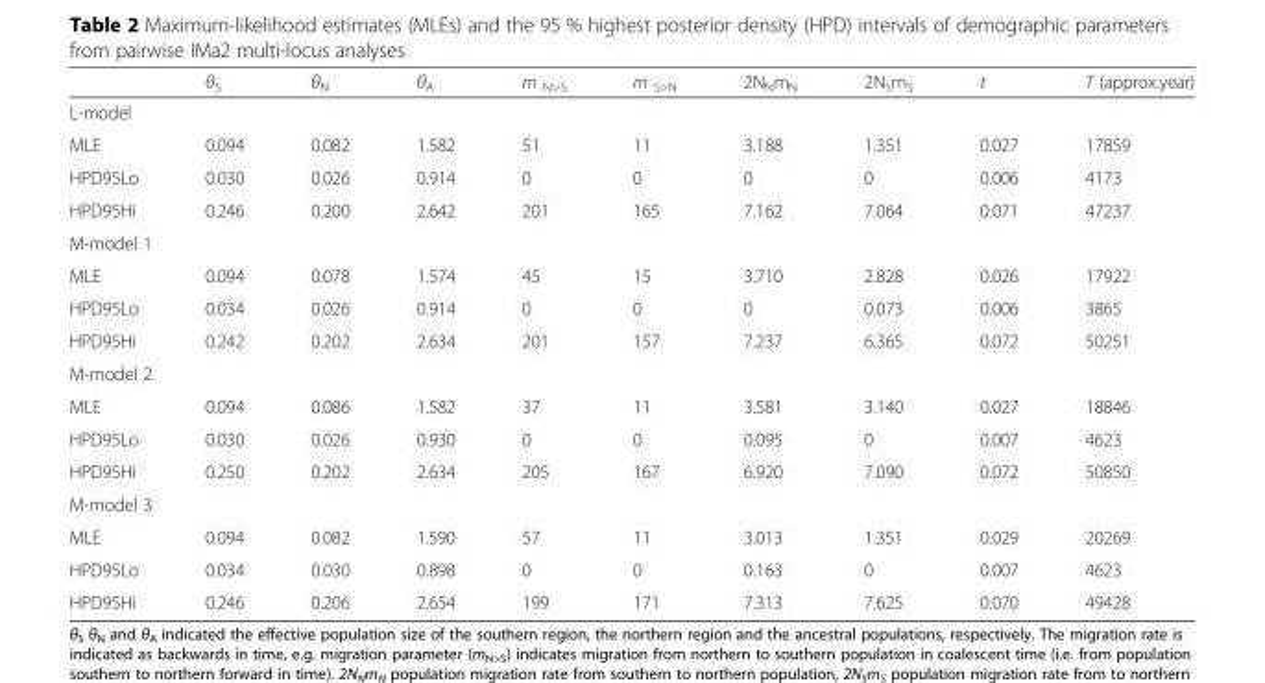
<table><thead><tr><td></td><td>θ<sub>S</sub></td><td>θ<sub>N</sub></td><td>θ<sub>A</sub></td><td>m <sub>N&gt;S</sub></td><td>m <sub>S&gt;N</sub></td><td>2N<sub>N</sub>m<sub>N</sub></td><td>2N<sub>S</sub>m<sub>S</sub></td><td>t</td><td>T (approx.year)</td></tr></thead><tbody><tr><td colspan="10">L-model</td></tr><tr><td>MLE</td><td>0.094</td><td>0.082</td><td>1.582</td><td>51</td><td>11</td><td>3.188</td><td>1.351</td><td>0.027</td><td>17859</td></tr><tr><td>HPD95Lo</td><td>0.030</td><td>0.026</td><td>0.914</td><td>0</td><td>0</td><td>0</td><td>0</td><td>0.006</td><td>4173</td></tr><tr><td>HPD95Hi</td><td>0.246</td><td>0.200</td><td>2.642</td><td>201</td><td>165</td><td>7.162</td><td>7.064</td><td>0.071</td><td>47237</td></tr><tr><td colspan="10">M-model 1</td></tr><tr><td>MLE</td><td>0.094</td><td>0.078</td><td>1.574</td><td>45</td><td>15</td><td>3.710</td><td>2.828</td><td>0.026</td><td>17922</td></tr><tr><td>HPD95Lo</td><td>0.034</td><td>0.026</td><td>0.914</td><td>0</td><td>0</td><td>0</td><td>0.073</td><td>0.006</td><td>3865</td></tr><tr><td>HPD95Hi</td><td>0.242</td><td>0.202</td><td>2.634</td><td>201</td><td>157</td><td>7.237</td><td>6.365</td><td>0.072</td><td>50251</td></tr><tr><td colspan="10">M-model 2</td></tr><tr><td>MLE</td><td>0.094</td><td>0.086</td><td>1.582</td><td>37</td><td>11</td><td>3.581</td><td>3.140</td><td>0.027</td><td>18846</td></tr><tr><td>HPD95Lo</td><td>0.030</td><td>0.026</td><td>0.930</td><td>0</td><td>0</td><td>0.095</td><td>0</td><td>0.007</td><td>4623</td></tr><tr><td>HPD95Hi</td><td>0.250</td><td>0.202</td><td>2.634</td><td>205</td><td>167</td><td>6.920</td><td>7.090</td><td>0.072</td><td>50850</td></tr><tr><td colspan="10">M-model 3</td></tr><tr><td>MLE</td><td>0.094</td><td>0.082</td><td>1.590</td><td>57</td><td>11</td><td>3.013</td><td>1.351</td><td>0.029</td><td>20269</td></tr><tr><td>HPD95Lo</td><td>0.034</td><td>0.030</td><td>0.898</td><td>0</td><td>0</td><td>0.163</td><td>0</td><td>0.007</td><td>4623</td></tr><tr><td>HPD95Hi</td><td>0.246</td><td>0.206</td><td>2.654</td><td>199</td><td>171</td><td>7.313</td><td>7.625</td><td>0.070</td><td>49428</td></tr></tbody></table>